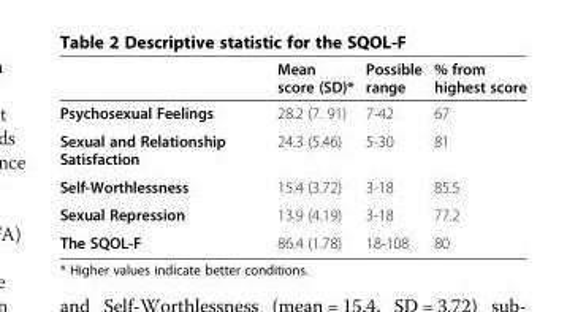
<table><thead><tr><td></td><td>Mean score (SD)*</td><td>Possible range</td><td>% from highest score</td></tr></thead><tbody><tr><td>Psychosexual Feelings</td><td>28.2 (7. 91)</td><td>7-42</td><td>67</td></tr><tr><td>Sexual and Relationship Satisfaction</td><td>24.3 (5.46)</td><td>5-30</td><td>81</td></tr><tr><td>Self-Worthlessness</td><td>15.4 (3.72)</td><td>3-18</td><td>85.5</td></tr><tr><td>Sexual Repression</td><td>13.9 (4.19)</td><td>3-18</td><td>77.2</td></tr><tr><td>The SQOL-F</td><td>86.4 (1.78)</td><td>18-108</td><td>80</td></tr></tbody></table>